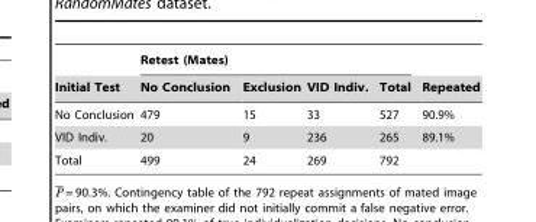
<table><thead><tr><td rowspan="2">Initial Test</td><td colspan="4">Retest (Mates)</td><td rowspan="2">Repeated</td></tr><tr><td>No Conclusion</td><td>Exclusion</td><td>VID Indiv.</td><td>Total</td></tr></thead><tbody><tr><td>No Conclusion</td><td>479</td><td>15</td><td>33</td><td>527</td><td>90.9%</td></tr><tr><td>VID Indiv.</td><td>20</td><td>9</td><td>236</td><td>265</td><td>89.1%</td></tr><tr><td>Total</td><td>499</td><td>24</td><td>269</td><td>792</td><td></td></tr></tbody></table>